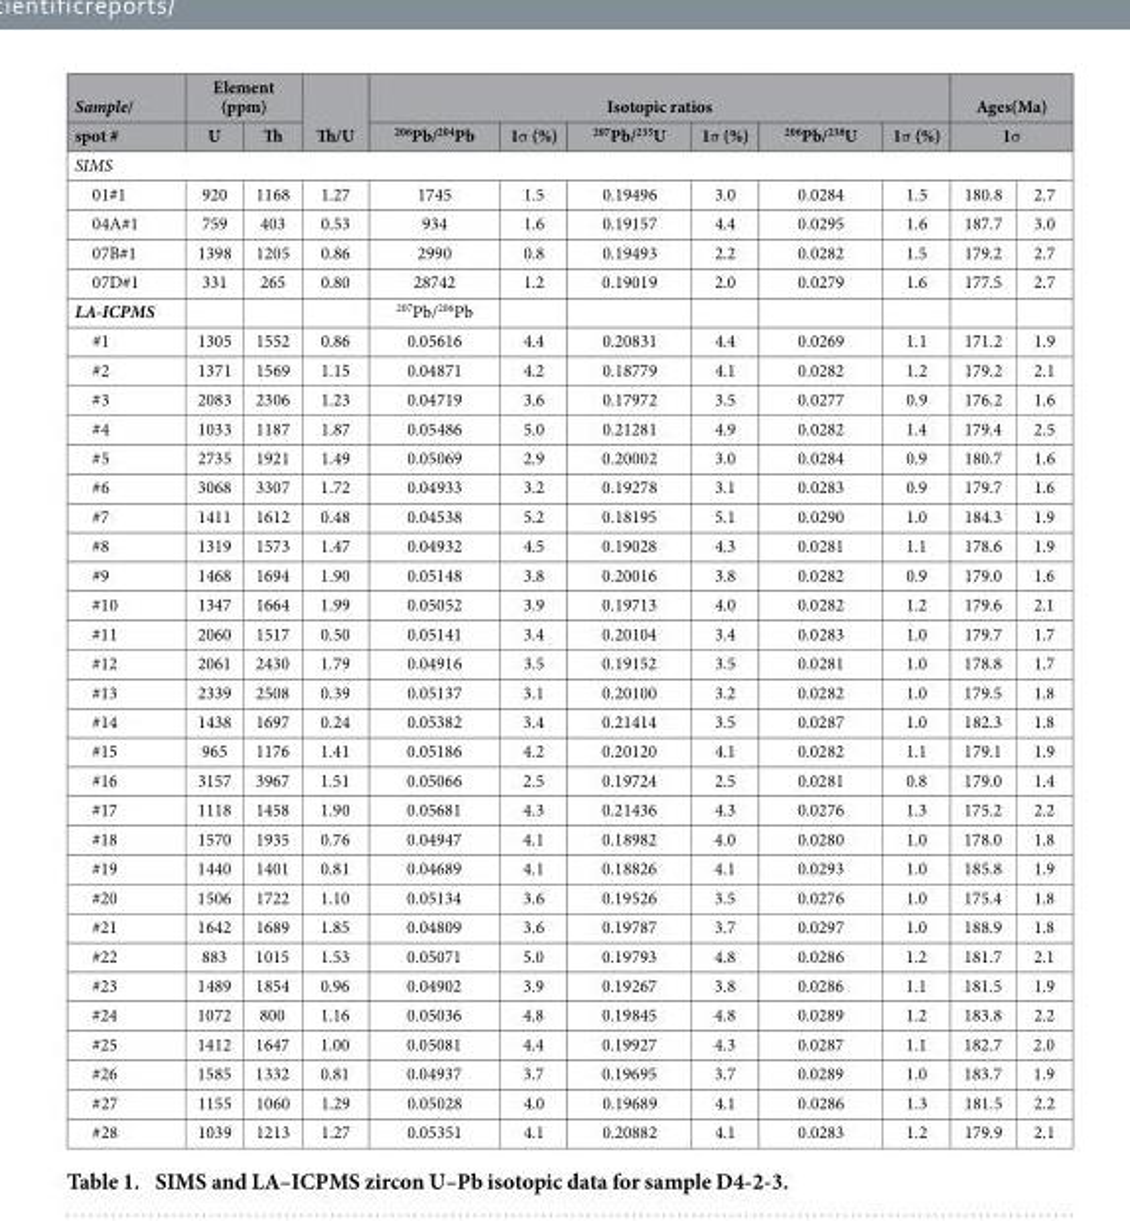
<table><thead><tr><td rowspan="2">Sample/ spot #</td><td colspan="2">Element (ppm)</td><td rowspan="2">Th/U</td><td colspan="6">Isotopic ratios</td><td rowspan="2" colspan="2">Ages(Ma) 1σ</td></tr><tr><td>U</td><td>Th</td><td><sup>206</sup>Pb/<sup>204</sup>Pb</td><td>1σ (%)</td><td><sup>207</sup>Pb/<sup>235</sup>U</td><td>1σ (%)</td><td><sup>206</sup>Pb/<sup>238</sup>U</td><td>1σ (%)</td></tr><tr><td colspan="12">SIMS</td></tr><tr><td>01#1</td><td>920</td><td>1168</td><td>1.27</td><td>1745</td><td>1.5</td><td>0.19496</td><td>3.0</td><td>0.0284</td><td>1.5</td><td>180.8</td><td>2.7</td></tr></thead><tbody><tr><td>04A#1</td><td>759</td><td>403</td><td>0.53</td><td>934</td><td>1.6</td><td>0.19157</td><td>4.4</td><td>0.0295</td><td>1.6</td><td>187.7</td><td>3.0</td></tr><tr><td>07B#1</td><td>1398</td><td>1205</td><td>0.86</td><td>2990</td><td>0.8</td><td>0.19493</td><td>2.2</td><td>0.0282</td><td>1.5</td><td>179.2</td><td>2.7</td></tr><tr><td>07D#1</td><td>331</td><td>265</td><td>0.80</td><td>28742</td><td>1.2</td><td>0.19019</td><td>2.0</td><td>0.0279</td><td>1.6</td><td>177.5</td><td>2.7</td></tr><tr><td>LA-ICPMS</td><td></td><td></td><td></td><td><sup>207</sup>Pb/<sup>206</sup>Pb</td><td></td><td></td><td></td><td></td><td></td><td></td><td></td></tr><tr><td>#1</td><td>1305</td><td>1552</td><td>0.86</td><td>0.05616</td><td>4.4</td><td>0.20831</td><td>4.4</td><td>0.0269</td><td>1.1</td><td>171.2</td><td>1.9</td></tr><tr><td>#2</td><td>1371</td><td>1569</td><td>1.15</td><td>0.04871</td><td>4.2</td><td>0.18779</td><td>4.1</td><td>0.0282</td><td>1.2</td><td>179.2</td><td>2.1</td></tr><tr><td>#3</td><td>2083</td><td>2306</td><td>1.23</td><td>0.04719</td><td>3.6</td><td>0.17972</td><td>3.5</td><td>0.0277</td><td>0.9</td><td>176.2</td><td>1.6</td></tr><tr><td>#4</td><td>1033</td><td>1187</td><td>1.87</td><td>0.05486</td><td>5.0</td><td>0.21281</td><td>4.9</td><td>0.0282</td><td>1.4</td><td>179.4</td><td>2.5</td></tr><tr><td>#5</td><td>2735</td><td>1921</td><td>1.49</td><td>0.05069</td><td>2.9</td><td>0.20002</td><td>3.0</td><td>0.0284</td><td>0.9</td><td>180.7</td><td>1.6</td></tr><tr><td>#6</td><td>3068</td><td>3307</td><td>1.72</td><td>0.04933</td><td>3.2</td><td>0.19278</td><td>3.1</td><td>0.0283</td><td>0.9</td><td>179.7</td><td>1.6</td></tr><tr><td>#7</td><td>1411</td><td>1612</td><td>0.48</td><td>0.04538</td><td>5.2</td><td>0.18195</td><td>5.1</td><td>0.0290</td><td>1.0</td><td>184.3</td><td>1.9</td></tr><tr><td>#8</td><td>1319</td><td>1573</td><td>1.47</td><td>0.04932</td><td>4.5</td><td>0.19028</td><td>4.3</td><td>0.0281</td><td>1.1</td><td>178.6</td><td>1.9</td></tr><tr><td>#9</td><td>1468</td><td>1694</td><td>1.90</td><td>0.05148</td><td>3.8</td><td>0.20016</td><td>3.8</td><td>0.0282</td><td>0.9</td><td>179.0</td><td>1.6</td></tr><tr><td>#10</td><td>1347</td><td>1664</td><td>1.99</td><td>0.05052</td><td>3.9</td><td>0.19713</td><td>4.0</td><td>0.0282</td><td>1.2</td><td>179.6</td><td>2.1</td></tr><tr><td>#11</td><td>2060</td><td>1517</td><td>0.50</td><td>0.05141</td><td>3.4</td><td>0.20104</td><td>3.4</td><td>0.0283</td><td>1.0</td><td>179.7</td><td>1.7</td></tr><tr><td>#12</td><td>2061</td><td>2430</td><td>1.79</td><td>0.04916</td><td>3.5</td><td>0.19152</td><td>3.5</td><td>0.0281</td><td>1.0</td><td>178.8</td><td>1.7</td></tr><tr><td>#13</td><td>2339</td><td>2508</td><td>0.39</td><td>0.05137</td><td>3.1</td><td>0.20100</td><td>3.2</td><td>0.0282</td><td>1.0</td><td>179.5</td><td>1.8</td></tr><tr><td>#14</td><td>1438</td><td>1697</td><td>0.24</td><td>0.05382</td><td>3.4</td><td>0.21414</td><td>3.5</td><td>0.0287</td><td>1.0</td><td>182.3</td><td>1.8</td></tr><tr><td>#15</td><td>965</td><td>1176</td><td>1.41</td><td>0.05186</td><td>4.2</td><td>0.20120</td><td>4.1</td><td>0.0282</td><td>1.1</td><td>179.1</td><td>1.9</td></tr><tr><td>#16</td><td>3157</td><td>3967</td><td>1.51</td><td>0.05066</td><td>2.5</td><td>0.19724</td><td>2.5</td><td>0.0281</td><td>0.8</td><td>179.0</td><td>1.4</td></tr><tr><td>#17</td><td>1118</td><td>1458</td><td>1.90</td><td>0.05681</td><td>4.3</td><td>0.21436</td><td>4.3</td><td>0.0276</td><td>1.3</td><td>175.2</td><td>2.2</td></tr><tr><td>#18</td><td>1570</td><td>1935</td><td>0.76</td><td>0.04947</td><td>4.1</td><td>0.18982</td><td>4.0</td><td>0.0280</td><td>1.0</td><td>178.0</td><td>1.8</td></tr><tr><td>#19</td><td>1440</td><td>1401</td><td>0.81</td><td>0.04689</td><td>4.1</td><td>0.18826</td><td>4.1</td><td>0.0293</td><td>1.0</td><td>185.8</td><td>1.9</td></tr><tr><td>#20</td><td>1506</td><td>1722</td><td>1.10</td><td>0.05134</td><td>3.6</td><td>0.19526</td><td>3.5</td><td>0.0276</td><td>1.0</td><td>175.4</td><td>1.8</td></tr><tr><td>#21</td><td>1642</td><td>1689</td><td>1.85</td><td>0.04809</td><td>3.6</td><td>0.19787</td><td>3.7</td><td>0.0297</td><td>1.0</td><td>188.9</td><td>1.8</td></tr><tr><td>#22</td><td>883</td><td>1015</td><td>1.53</td><td>0.05071</td><td>5.0</td><td>0.19793</td><td>4.8</td><td>0.0286</td><td>1.2</td><td>181.7</td><td>2.1</td></tr><tr><td>#23</td><td>1489</td><td>1854</td><td>0.96</td><td>0.04902</td><td>3.9</td><td>0.19267</td><td>3.8</td><td>0.0286</td><td>1.1</td><td>181.5</td><td>1.9</td></tr><tr><td>#24</td><td>1072</td><td>800</td><td>1.16</td><td>0.05036</td><td>4.8</td><td>0.19845</td><td>4.8</td><td>0.0289</td><td>1.2</td><td>183.8</td><td>2.2</td></tr><tr><td>#25</td><td>1412</td><td>1647</td><td>1.00</td><td>0.05081</td><td>4.4</td><td>0.19927</td><td>4.3</td><td>0.0287</td><td>1.1</td><td>182.7</td><td>2.0</td></tr><tr><td>#26</td><td>1585</td><td>1332</td><td>0.81</td><td>0.04937</td><td>3.7</td><td>0.19695</td><td>3.7</td><td>0.0289</td><td>1.0</td><td>183.7</td><td>1.9</td></tr><tr><td>#27</td><td>1155</td><td>1060</td><td>1.29</td><td>0.05028</td><td>4.0</td><td>0.19689</td><td>4.1</td><td>0.0286</td><td>1.3</td><td>181.5</td><td>2.2</td></tr><tr><td>#28</td><td>1039</td><td>1213</td><td>1.27</td><td>0.05351</td><td>4.1</td><td>0.20882</td><td>4.1</td><td>0.0283</td><td>1.2</td><td>179.9</td><td>2.1</td></tr></tbody></table>